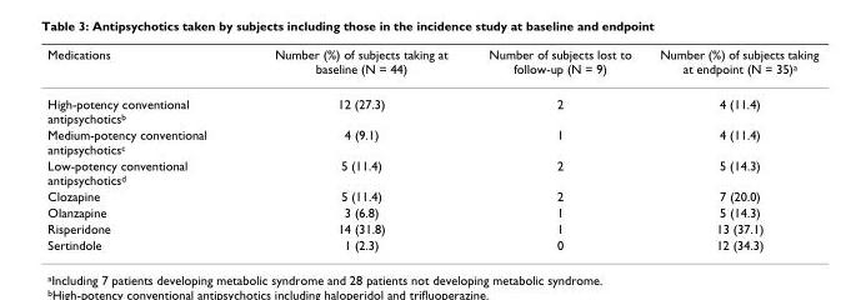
<table><thead><tr><td>Medications</td><td>Number (%) of subjects taking at baseline (N = 44)</td><td>Number of subjects lost to follow-up (N = 9)</td><td>Number (%) of subjects taking at endpoint (N = 35)<sup>a</sup></td></tr></thead><tbody><tr><td>High-potency conventional antipsychotics<sup>b</sup></td><td>12 (27.3)</td><td>2</td><td>4 (11.4)</td></tr><tr><td>Medium-potency conventional antipsychotics<sup>c</sup></td><td>4 (9.1)</td><td>1</td><td>4 (11.4)</td></tr><tr><td>Low-potency conventional antipsychotics<sup>d</sup></td><td>5 (11.4)</td><td>2</td><td>5 (14.3)</td></tr><tr><td>Clozapine</td><td>5 (11.4)</td><td>2</td><td>7 (20.0)</td></tr><tr><td>Olanzapine</td><td>3 (6.8)</td><td>1</td><td>5 (14.3)</td></tr><tr><td>Risperidone</td><td>14 (31.8)</td><td>1</td><td>13 (37.1)</td></tr><tr><td>Sertindole</td><td>1 (2.3)</td><td>0</td><td>12 (34.3)</td></tr></tbody></table>